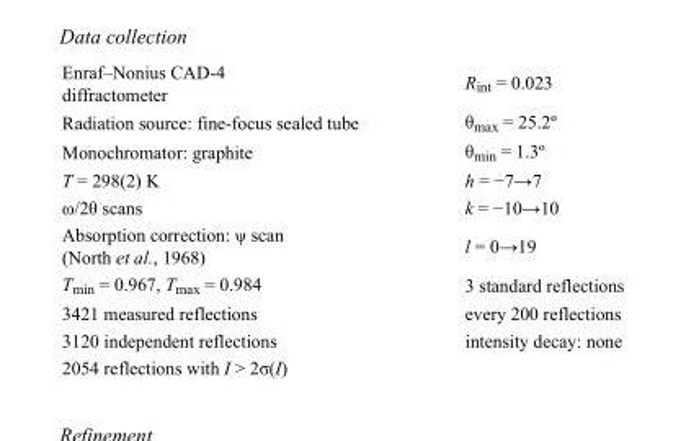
<table><tbody><tr><td>Enraf–Nonius CAD-4 diffractometer</td><td>R<sub>int</sub> = 0.023</td></tr><tr><td>Radiation source: fine-focus sealed tube</td><td>θ<sub>max</sub> = 25.2º</td></tr><tr><td>Monochromator: graphite</td><td>θ<sub>min</sub> = 1.3º</td></tr><tr><td>T = 298(2) K</td><td>h = −7→7</td></tr><tr><td>ω/2θ scans</td><td>k = −10→10</td></tr><tr><td>Absorption correction: ψ scan (North et al., 1968)</td><td>l = 0→19</td></tr><tr><td>T<sub>min</sub> = 0.967, T<sub>max</sub> = 0.984</td><td>3 standard reflections</td></tr><tr><td>3421 measured reflections</td><td>every 200 reflections</td></tr><tr><td>3120 independent reflections</td><td>intensity decay: none</td></tr><tr><td>2054 reflections with I &gt; 2σ(I)</td><td></td></tr></tbody></table>